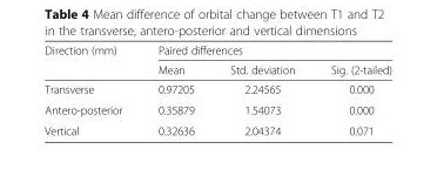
<table><thead><tr><td rowspan="2">Direction (mm)</td><td colspan="3">Paired differences</td></tr><tr><td>Mean</td><td>Std. deviation</td><td>Sig. (2-tailed)</td></tr></thead><tbody><tr><td>Transverse</td><td>0.97205</td><td>2.24565</td><td>0.000</td></tr><tr><td>Antero-posterior</td><td>0.35879</td><td>1.54073</td><td>0.000</td></tr><tr><td>Vertical</td><td>0.32636</td><td>2.04374</td><td>0.071</td></tr></tbody></table>